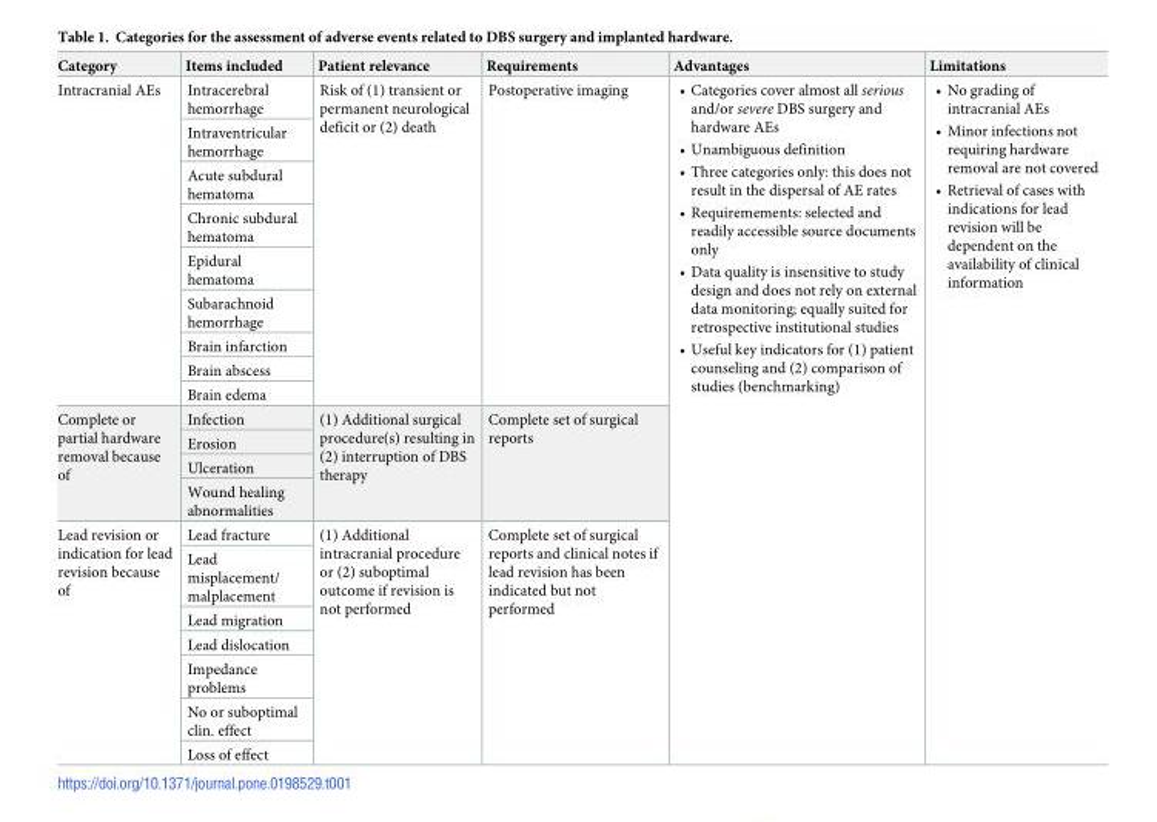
<table><thead><tr><td>Category</td><td>Items included</td><td>Patient relevance</td><td>Requirements</td><td>Advantages</td><td>Limitations</td></tr></thead><tbody><tr><td rowspan="9">Intracranial AEs</td><td>Intracerebral hemorrhage</td><td rowspan="9">Risk of (1) transient or permanent neurological deficit or (2) death</td><td rowspan="9">Postoperative imaging</td><td rowspan="20">• Categories cover almost all serious and/or severe DBS surgery and hardware AEs • Unambiguous definition • Three categories only: this does not result in the dispersal of AE rates • Requiremements: selected and readily accessible source documents only • Data quality is insensitive to study design and does not rely on external data monitoring; equally suited for retrospective institutional studies • Useful key indicators for (1) patient counseling and (2) comparison of studies (benchmarking)</td><td rowspan="20">• No grading of intracranial AEs • Minor infections not requiring hardware removal are not covered • Retrieval of cases with indications for lead revision will be dependent on the availability of clinical information</td></tr><tr><td>Intraventricular hemorrhage</td></tr><tr><td>Acute subdural hematoma</td></tr><tr><td>Chronic subdural hematoma</td></tr><tr><td>Epidural hematoma</td></tr><tr><td>Subarachnoid hemorrhage</td></tr><tr><td>Brain infarction</td></tr><tr><td>Brain abscess</td></tr><tr><td>Brain edema</td></tr><tr><td rowspan="4">Complete or partial hardware removal because of</td><td>Infection</td><td rowspan="4">(1) Additional surgical procedure(s) resulting in (2) interruption of DBS therapy</td><td rowspan="4">Complete set of surgical reports</td></tr><tr><td>Erosion</td></tr><tr><td>Ulceration</td></tr><tr><td>Wound healing abnormalities</td></tr><tr><td rowspan="7">Lead revision or indication for lead revision because of</td><td>Lead fracture</td><td rowspan="7">(1) Additional intracranial procedure or (2) suboptimal outcome if revision is not performed</td><td rowspan="7">Complete set of surgical reports and clinical notes if lead revision has been indicated but not performed</td></tr><tr><td>Lead misplacement/ malplacement</td></tr><tr><td>Lead migration</td></tr><tr><td>Lead dislocation</td></tr><tr><td>Impedance problems</td></tr><tr><td>No or suboptimal clin. effect</td></tr><tr><td>Loss of effect</td></tr></tbody></table>